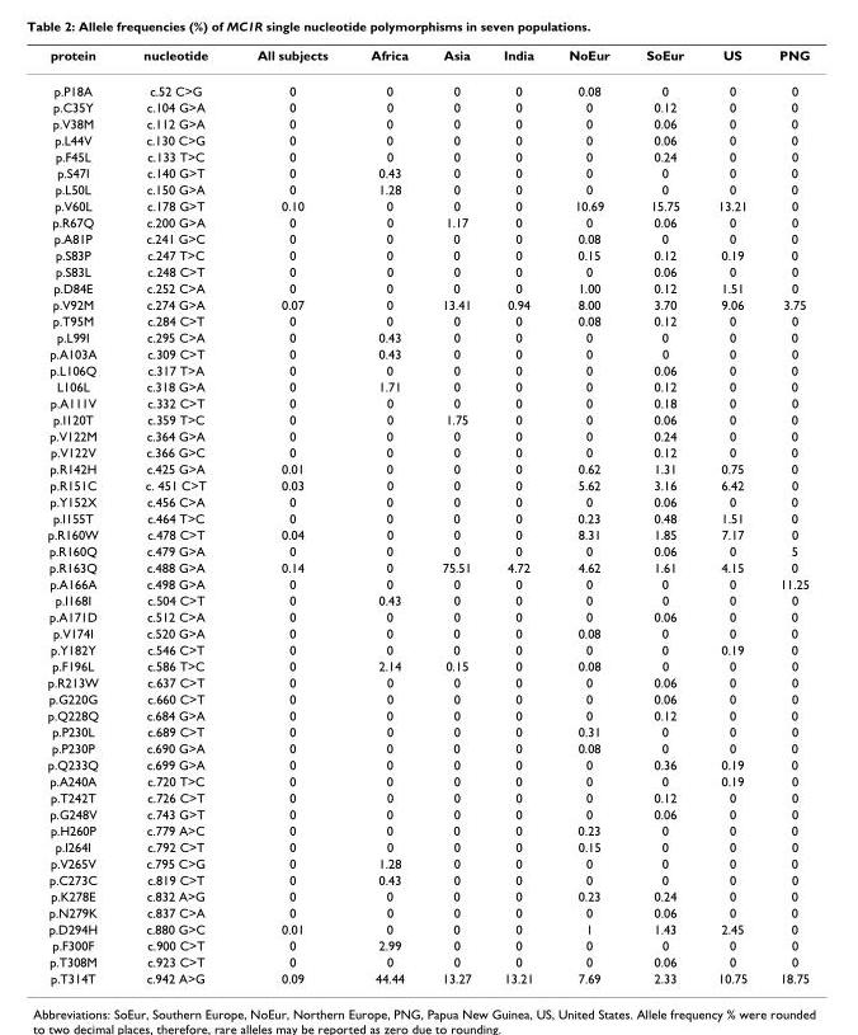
<table><thead><tr><td>protein</td><td>nucleotide</td><td>All subjects</td><td>Africa</td><td>Asia</td><td>India</td><td>NoEur</td><td>SoEur</td><td>US</td><td>PNG</td></tr></thead><tbody><tr><td>p.P18A</td><td>c.52 C&gt;G</td><td>0</td><td>0</td><td>0</td><td>0</td><td>0.08</td><td>0</td><td>0</td><td>0</td></tr><tr><td>p.C35Y</td><td>c.104 G&gt;A</td><td>0</td><td>0</td><td>0</td><td>0</td><td>0</td><td>0.12</td><td>0</td><td>0</td></tr><tr><td>p.V38M</td><td>c.112 G&gt;A</td><td>0</td><td>0</td><td>0</td><td>0</td><td>0</td><td>0.06</td><td>0</td><td>0</td></tr><tr><td>p.L44V</td><td>c.130 C&gt;G</td><td>0</td><td>0</td><td>0</td><td>0</td><td>0</td><td>0.06</td><td>0</td><td>0</td></tr><tr><td>p.F45L</td><td>c.133 T&gt;C</td><td>0</td><td>0</td><td>0</td><td>0</td><td>0</td><td>0.24</td><td>0</td><td>0</td></tr><tr><td>p.S47I</td><td>c.140 G&gt;T</td><td>0</td><td>0.43</td><td>0</td><td>0</td><td>0</td><td>0</td><td>0</td><td>0</td></tr><tr><td>p.L50L</td><td>c.150 G&gt;A</td><td>0</td><td>1.28</td><td>0</td><td>0</td><td>0</td><td>0</td><td>0</td><td>0</td></tr><tr><td>p.V60L</td><td>c.178 G&gt;T</td><td>0.10</td><td>0</td><td>0</td><td>0</td><td>10.69</td><td>15.75</td><td>13.21</td><td>0</td></tr><tr><td>p.R67Q</td><td>c.200 G&gt;A</td><td>0</td><td>0</td><td>1.17</td><td>0</td><td>0</td><td>0.06</td><td>0</td><td>0</td></tr><tr><td>p.A81P</td><td>c.241 G&gt;C</td><td>0</td><td>0</td><td>0</td><td>0</td><td>0.08</td><td>0</td><td>0</td><td>0</td></tr><tr><td>p.S83P</td><td>c.247 T&gt;C</td><td>0</td><td>0</td><td>0</td><td>0</td><td>0.15</td><td>0.12</td><td>0.19</td><td>0</td></tr><tr><td>p.S83L</td><td>c.248 C&gt;T</td><td>0</td><td>0</td><td>0</td><td>0</td><td>0</td><td>0.06</td><td>0</td><td>0</td></tr><tr><td>p.D84E</td><td>c.252 C&gt;A</td><td>0</td><td>0</td><td>0</td><td>0</td><td>1.00</td><td>0.12</td><td>1.51</td><td>0</td></tr><tr><td>p.V92M</td><td>c.274 G&gt;A</td><td>0.07</td><td>0</td><td>13.41</td><td>0.94</td><td>8.00</td><td>3.70</td><td>9.06</td><td>3.75</td></tr><tr><td>p.T95M</td><td>c.284 C&gt;T</td><td>0</td><td>0</td><td>0</td><td>0</td><td>0.08</td><td>0.12</td><td>0</td><td>0</td></tr><tr><td>p.L99I</td><td>c.295 C&gt;A</td><td>0</td><td>0.43</td><td>0</td><td>0</td><td>0</td><td>0</td><td>0</td><td>0</td></tr><tr><td>p.A103A</td><td>c.309 C&gt;T</td><td>0</td><td>0.43</td><td>0</td><td>0</td><td>0</td><td>0</td><td>0</td><td>0</td></tr><tr><td>p.L106Q</td><td>c.317 T&gt;A</td><td>0</td><td>0</td><td>0</td><td>0</td><td>0</td><td>0.06</td><td>0</td><td>0</td></tr><tr><td>L106L</td><td>c.318 G&gt;A</td><td>0</td><td>1.71</td><td>0</td><td>0</td><td>0</td><td>0.12</td><td>0</td><td>0</td></tr><tr><td>p.A111V</td><td>c.332 C&gt;T</td><td>0</td><td>0</td><td>0</td><td>0</td><td>0</td><td>0.18</td><td>0</td><td>0</td></tr><tr><td>p.I120T</td><td>c.359 T&gt;C</td><td>0</td><td>0</td><td>1.75</td><td>0</td><td>0</td><td>0.06</td><td>0</td><td>0</td></tr><tr><td>p.V122M</td><td>c.364 G&gt;A</td><td>0</td><td>0</td><td>0</td><td>0</td><td>0</td><td>0.24</td><td>0</td><td>0</td></tr><tr><td>p.V122V</td><td>c.366 G&gt;C</td><td>0</td><td>0</td><td>0</td><td>0</td><td>0</td><td>0.12</td><td>0</td><td>0</td></tr><tr><td>p.R142H</td><td>c.425 G&gt;A</td><td>0.01</td><td>0</td><td>0</td><td>0</td><td>0.62</td><td>1.31</td><td>0.75</td><td>0</td></tr><tr><td>p.R151C</td><td>c. 451 C&gt;T</td><td>0.03</td><td>0</td><td>0</td><td>0</td><td>5.62</td><td>3.16</td><td>6.42</td><td>0</td></tr><tr><td>p.Y152X</td><td>c.456 C&gt;A</td><td>0</td><td>0</td><td>0</td><td>0</td><td>0</td><td>0.06</td><td>0</td><td>0</td></tr><tr><td>p.I155T</td><td>c.464 T&gt;C</td><td>0</td><td>0</td><td>0</td><td>0</td><td>0.23</td><td>0.48</td><td>1.51</td><td>0</td></tr><tr><td>p.R160W</td><td>c.478 C&gt;T</td><td>0.04</td><td>0</td><td>0</td><td>0</td><td>8.31</td><td>1.85</td><td>7.17</td><td>0</td></tr><tr><td>p.R160Q</td><td>c.479 G&gt;A</td><td>0</td><td>0</td><td>0</td><td>0</td><td>0</td><td>0.06</td><td>0</td><td>5</td></tr><tr><td>p.R163Q</td><td>c.488 G&gt;A</td><td>0.14</td><td>0</td><td>75.51</td><td>4.72</td><td>4.62</td><td>1.61</td><td>4.15</td><td>0</td></tr><tr><td>p.A166A</td><td>c.498 G&gt;A</td><td>0</td><td>0</td><td>0</td><td>0</td><td>0</td><td>0</td><td>0</td><td>11.25</td></tr><tr><td>p.I168I</td><td>c.504 C&gt;T</td><td>0</td><td>0.43</td><td>0</td><td>0</td><td>0</td><td>0</td><td>0</td><td>0</td></tr><tr><td>p.A171D</td><td>c.512 C&gt;A</td><td>0</td><td>0</td><td>0</td><td>0</td><td>0</td><td>0.06</td><td>0</td><td>0</td></tr><tr><td>p.V174I</td><td>c.520 G&gt;A</td><td>0</td><td>0</td><td>0</td><td>0</td><td>0.08</td><td>0</td><td>0</td><td>0</td></tr><tr><td>p.Y182Y</td><td>c.546 C&gt;T</td><td>0</td><td>0</td><td>0</td><td>0</td><td>0</td><td>0</td><td>0.19</td><td>0</td></tr><tr><td>p.F196L</td><td>c.586 T&gt;C</td><td>0</td><td>2.14</td><td>0.15</td><td>0</td><td>0.08</td><td>0</td><td>0</td><td>0</td></tr><tr><td>p.R213W</td><td>c.637 C&gt;T</td><td>0</td><td>0</td><td>0</td><td>0</td><td>0</td><td>0.06</td><td>0</td><td>0</td></tr><tr><td>p.G220G</td><td>c.660 C&gt;T</td><td>0</td><td>0</td><td>0</td><td>0</td><td>0</td><td>0.06</td><td>0</td><td>0</td></tr><tr><td>p.Q228Q</td><td>c.684 G&gt;A</td><td>0</td><td>0</td><td>0</td><td>0</td><td>0</td><td>0.12</td><td>0</td><td>0</td></tr><tr><td>p.P230L</td><td>c.689 C&gt;T</td><td>0</td><td>0</td><td>0</td><td>0</td><td>0.31</td><td>0</td><td>0</td><td>0</td></tr><tr><td>p.P230P</td><td>c.690 G&gt;A</td><td>0</td><td>0</td><td>0</td><td>0</td><td>0.08</td><td>0</td><td>0</td><td>0</td></tr><tr><td>p.Q233Q</td><td>c.699 G&gt;A</td><td>0</td><td>0</td><td>0</td><td>0</td><td>0</td><td>0.36</td><td>0.19</td><td>0</td></tr><tr><td>p.A240A</td><td>c.720 T&gt;C</td><td>0</td><td>0</td><td>0</td><td>0</td><td>0</td><td>0</td><td>0.19</td><td>0</td></tr><tr><td>p.T242T</td><td>c.726 C&gt;T</td><td>0</td><td>0</td><td>0</td><td>0</td><td>0</td><td>0.12</td><td>0</td><td>0</td></tr><tr><td>p.G248V</td><td>c.743 G&gt;T</td><td>0</td><td>0</td><td>0</td><td>0</td><td>0</td><td>0.06</td><td>0</td><td>0</td></tr><tr><td>p.H260P</td><td>c.779 A&gt;C</td><td>0</td><td>0</td><td>0</td><td>0</td><td>0.23</td><td>0</td><td>0</td><td>0</td></tr><tr><td>p.I264I</td><td>c.792 C&gt;T</td><td>0</td><td>0</td><td>0</td><td>0</td><td>0.15</td><td>0</td><td>0</td><td>0</td></tr><tr><td>p.V265V</td><td>c.795 C&gt;G</td><td>0</td><td>1.28</td><td>0</td><td>0</td><td>0</td><td>0</td><td>0</td><td>0</td></tr><tr><td>p.C273C</td><td>c.819 C&gt;T</td><td>0</td><td>0.43</td><td>0</td><td>0</td><td>0</td><td>0</td><td>0</td><td>0</td></tr><tr><td>p.K278E</td><td>c.832 A&gt;G</td><td>0</td><td>0</td><td>0</td><td>0</td><td>0.23</td><td>0.24</td><td>0</td><td>0</td></tr><tr><td>p.N279K</td><td>c.837 C&gt;A</td><td>0</td><td>0</td><td>0</td><td>0</td><td>0</td><td>0.06</td><td>0</td><td>0</td></tr><tr><td>p.D294H</td><td>c.880 G&gt;C</td><td>0.01</td><td>0</td><td>0</td><td>0</td><td>1</td><td>1.43</td><td>2.45</td><td>0</td></tr><tr><td>p.F300F</td><td>c.900 C&gt;T</td><td>0</td><td>2.99</td><td>0</td><td>0</td><td>0</td><td>0</td><td>0</td><td>0</td></tr><tr><td>p.T308M</td><td>c.923 C&gt;T</td><td>0</td><td>0</td><td>0</td><td>0</td><td>0</td><td>0.06</td><td>0</td><td>0</td></tr><tr><td>p.T314T</td><td>c.942 A&gt;G</td><td>0.09</td><td>44.44</td><td>13.27</td><td>13.21</td><td>7.69</td><td>2.33</td><td>10.75</td><td>18.75</td></tr></tbody></table>